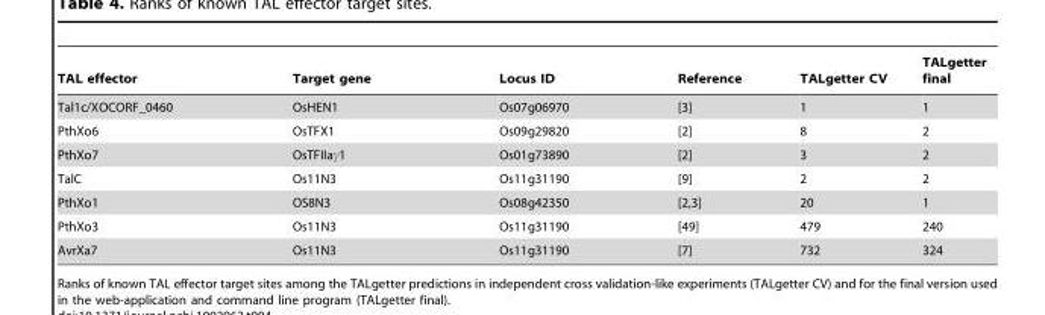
<table><thead><tr><td>TAL effector</td><td>Target gene</td><td>Locus ID</td><td>Reference</td><td>TALgetter CV</td><td>TALgetter final</td></tr></thead><tbody><tr><td>Tal1c/XOCORF_0460</td><td>OsHEN1</td><td>Os07g06970</td><td>[3]</td><td>1</td><td>1</td></tr><tr><td>PthXo6</td><td>OsTFX1</td><td>Os09g29820</td><td>[2]</td><td>8</td><td>2</td></tr><tr><td>PthXo7</td><td>OsTFIIac1</td><td>Os01g73890</td><td>[2]</td><td>3</td><td>2</td></tr><tr><td>TalC</td><td>Os11N3</td><td>Os11g31190</td><td>[9]</td><td>2</td><td>2</td></tr><tr><td>PthXo1</td><td>OS8N3</td><td>Os08g42350</td><td>[2,3]</td><td>20</td><td>1</td></tr><tr><td>PthXo3</td><td>Os11N3</td><td>Os11g31190</td><td>[49]</td><td>479</td><td>240</td></tr><tr><td>AvrXa7</td><td>Os11N3</td><td>Os11g31190</td><td>[7]</td><td>732</td><td>324</td></tr></tbody></table>